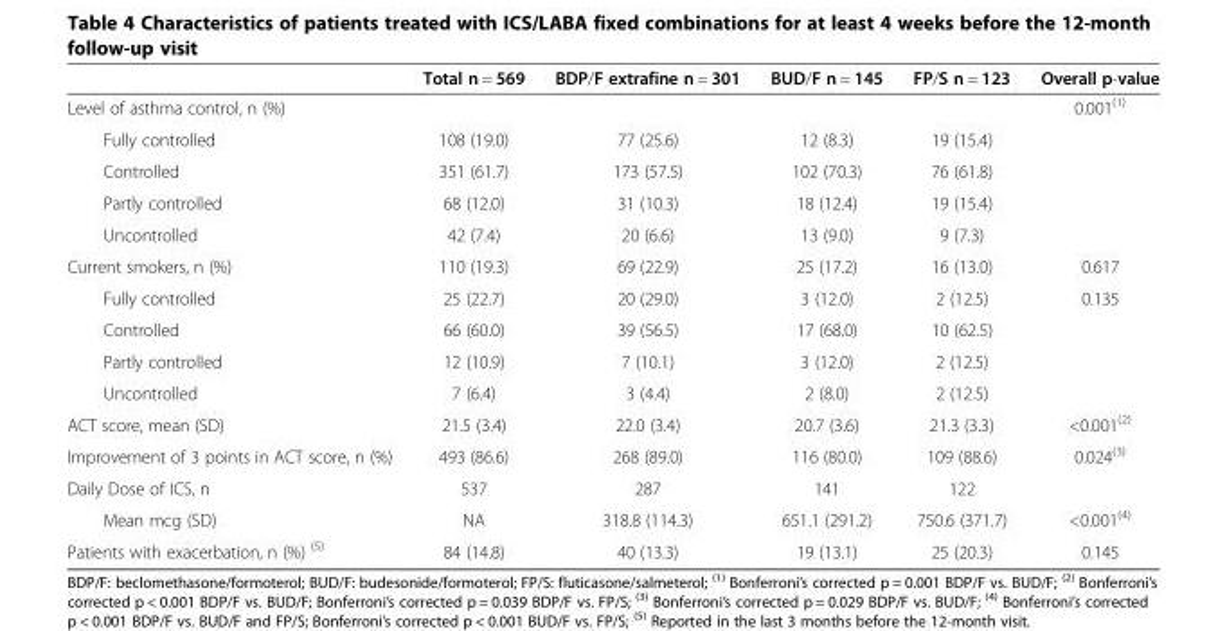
<table><thead><tr><td></td><td>Total n = 569</td><td>BDP/F extrafine n = 301</td><td>BUD/F n = 145</td><td>FP/S n = 123</td><td>Overall p-value</td></tr></thead><tbody><tr><td>Level of asthma control, n (%)</td><td></td><td></td><td></td><td></td><td>0.001<sup>(1)</sup></td></tr><tr><td>Fully controlled</td><td>108 (19.0)</td><td>77 (25.6)</td><td>12 (8.3)</td><td>19 (15.4)</td><td></td></tr><tr><td>Controlled</td><td>351 (61.7)</td><td>173 (57.5)</td><td>102 (70.3)</td><td>76 (61.8)</td><td></td></tr><tr><td>Partly controlled</td><td>68 (12.0)</td><td>31 (10.3)</td><td>18 (12.4)</td><td>19 (15.4)</td><td></td></tr><tr><td>Uncontrolled</td><td>42 (7.4)</td><td>20 (6.6)</td><td>13 (9.0)</td><td>9 (7.3)</td><td></td></tr><tr><td>Current smokers, n (%)</td><td>110 (19.3)</td><td>69 (22.9)</td><td>25 (17.2)</td><td>16 (13.0)</td><td>0.617</td></tr><tr><td>Fully controlled</td><td>25 (22.7)</td><td>20 (29.0)</td><td>3 (12.0)</td><td>2 (12.5)</td><td>0.135</td></tr><tr><td>Controlled</td><td>66 (60.0)</td><td>39 (56.5)</td><td>17 (68.0)</td><td>10 (62.5)</td><td></td></tr><tr><td>Partly controlled</td><td>12 (10.9)</td><td>7 (10.1)</td><td>3 (12.0)</td><td>2 (12.5)</td><td></td></tr><tr><td>Uncontrolled</td><td>7 (6.4)</td><td>3 (4.4)</td><td>2 (8.0)</td><td>2 (12.5)</td><td></td></tr><tr><td>ACT score, mean (SD)</td><td>21.5 (3.4)</td><td>22.0 (3.4)</td><td>20.7 (3.6)</td><td>21.3 (3.3)</td><td>&lt;0.001<sup>(2)</sup></td></tr><tr><td>Improvement of 3 points in ACT score, n (%)</td><td>493 (86.6)</td><td>268 (89.0)</td><td>116 (80.0)</td><td>109 (88.6)</td><td>0.024<sup>(3)</sup></td></tr><tr><td>Daily Dose of ICS, n</td><td>537</td><td>287</td><td>141</td><td>122</td><td></td></tr><tr><td>Mean mcg (SD)</td><td>NA</td><td>318.8 (114.3)</td><td>651.1 (291.2)</td><td>750.6 (371.7)</td><td>&lt;0.001<sup>(4)</sup></td></tr><tr><td>Patients with exacerbation, n (%) <sup>(5)</sup></td><td>84 (14.8)</td><td>40 (13.3)</td><td>19 (13.1)</td><td>25 (20.3)</td><td>0.145</td></tr></tbody></table>